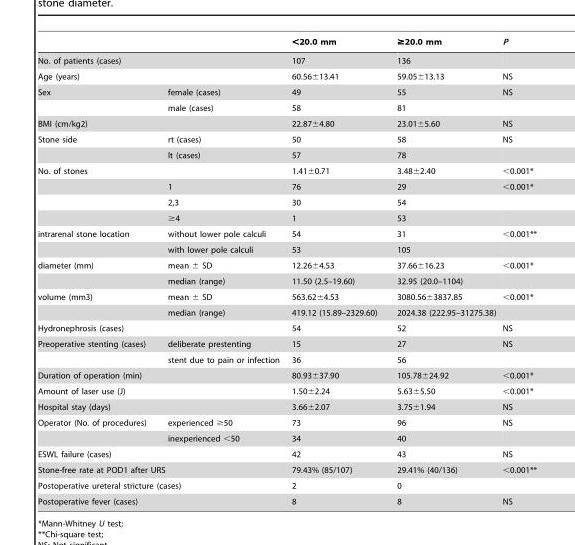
<table><thead><tr><td></td><td></td><td>&lt;20.0 mm</td><td>≥20.0 mm</td><td>P</td></tr></thead><tbody><tr><td colspan="2">No. of patients (cases)</td><td>107</td><td>136</td><td></td></tr><tr><td colspan="2">Age (years)</td><td>60.56±13.41</td><td>59.05±13.13</td><td>NS</td></tr><tr><td rowspan="2">Sex</td><td>female (cases)</td><td>49</td><td>55</td><td>NS</td></tr><tr><td>male (cases)</td><td>58</td><td>81</td><td></td></tr><tr><td colspan="2">BMI (cm/kg2)</td><td>22.87±4.80</td><td>23.01±5.60</td><td>NS</td></tr><tr><td rowspan="2">Stone side</td><td>rt (cases)</td><td>50</td><td>58</td><td>NS</td></tr><tr><td>lt (cases)</td><td>57</td><td>78</td><td></td></tr><tr><td rowspan="4">No. of stones</td><td></td><td>1.41±0.71</td><td>3.48±2.40</td><td>&lt;0.001*</td></tr><tr><td>1</td><td>76</td><td>29</td><td>&lt;0.001*</td></tr><tr><td>2,3</td><td>30</td><td>54</td><td></td></tr><tr><td>≥4</td><td>1</td><td>53</td><td></td></tr><tr><td rowspan="2">intrarenal stone location</td><td>without lower pole calculi</td><td>54</td><td>31</td><td>&lt;0.001**</td></tr><tr><td>with lower pole calculi</td><td>53</td><td>105</td><td></td></tr><tr><td rowspan="2">diameter (mm)</td><td>mean ± SD</td><td>12.26±4.53</td><td>37.66±16.23</td><td>&lt;0.001*</td></tr><tr><td>median (range)</td><td>11.50 (2.5–19.60)</td><td>32.95 (20.0–1104)</td><td></td></tr><tr><td rowspan="2">volume (mm3)</td><td>mean ± SD</td><td>563.62±4.53</td><td>3080.56±3837.85</td><td>&lt;0.001*</td></tr><tr><td>median (range)</td><td>419.12 (15.89–2329.60)</td><td>2024.38 (222.95–31275.38)</td><td></td></tr><tr><td colspan="2">Hydronephrosis (cases)</td><td>54</td><td>52</td><td>NS</td></tr><tr><td rowspan="2">Preoperative stenting (cases)</td><td>deliberate prestenting</td><td>15</td><td>27</td><td>NS</td></tr><tr><td>stent due to pain or infection</td><td>36</td><td>56</td><td></td></tr><tr><td colspan="2">Duration of operation (min)</td><td>80.93±37.90</td><td>105.78±24.92</td><td>&lt;0.001*</td></tr><tr><td colspan="2">Amount of laser use (J)</td><td>1.50±2.24</td><td>5.63±5.50</td><td>&lt;0.001*</td></tr><tr><td colspan="2">Hospital stay (days)</td><td>3.66±2.07</td><td>3.75±1.94</td><td>NS</td></tr><tr><td rowspan="2">Operator (No. of procedures)</td><td>experienced ≥50</td><td>73</td><td>96</td><td>NS</td></tr><tr><td>inexperienced &lt;50</td><td>34</td><td>40</td><td></td></tr><tr><td colspan="2">ESWL failure (cases)</td><td>42</td><td>43</td><td>NS</td></tr><tr><td colspan="2">Stone-free rate at POD1 after URS</td><td>79.43% (85/107)</td><td>29.41% (40/136)</td><td>&lt;0.001**</td></tr><tr><td colspan="2">Postoperative ureteral stricture (cases)</td><td>2</td><td>0</td><td></td></tr><tr><td colspan="2">Postoperative fever (cases)</td><td>8</td><td>8</td><td>NS</td></tr></tbody></table>